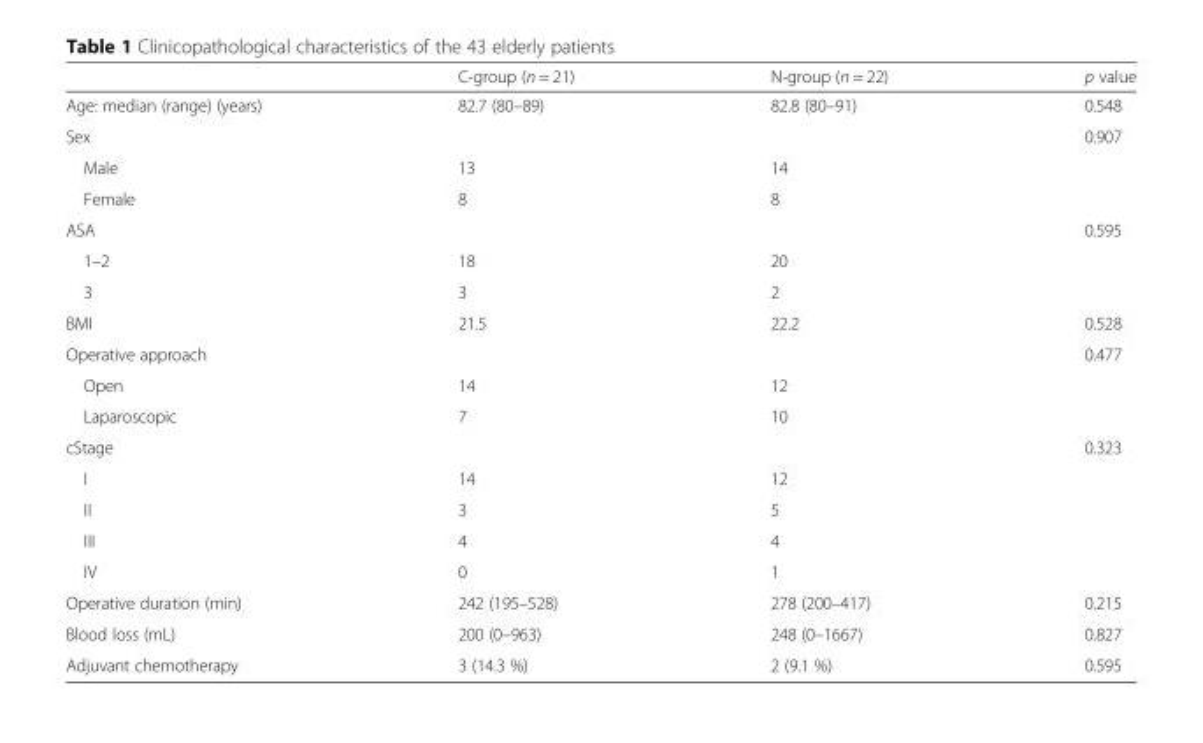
<table><thead><tr><td></td><td>C-group (n = 21)</td><td>N-group (n = 22)</td><td>p value</td></tr></thead><tbody><tr><td>Age: median (range) (years)</td><td>82.7 (80–89)</td><td>82.8 (80–91)</td><td>0.548</td></tr><tr><td colspan="3">Sex</td><td rowspan="3">0.907</td></tr><tr><td>Male</td><td>13</td><td>14</td></tr><tr><td>Female</td><td>8</td><td>8</td></tr><tr><td colspan="3">ASA</td><td rowspan="3">0.595</td></tr><tr><td>1–2</td><td>18</td><td>20</td></tr><tr><td>3</td><td>3</td><td>2</td></tr><tr><td>BMI</td><td>21.5</td><td>22.2</td><td>0.528</td></tr><tr><td colspan="3">Operative approach</td><td rowspan="3">0.477</td></tr><tr><td>Open</td><td>14</td><td>12</td></tr><tr><td>Laparoscopic</td><td>7</td><td>10</td></tr><tr><td colspan="3">cStage</td><td rowspan="5">0.323</td></tr><tr><td>I</td><td>14</td><td>12</td></tr><tr><td>II</td><td>3</td><td>5</td></tr><tr><td>III</td><td>4</td><td>4</td></tr><tr><td>IV</td><td>0</td><td>1</td></tr><tr><td>Operative duration (min)</td><td>242 (195–528)</td><td>278 (200–417)</td><td>0.215</td></tr><tr><td>Blood loss (mL)</td><td>200 (0–963)</td><td>248 (0–1667)</td><td>0.827</td></tr><tr><td>Adjuvant chemotherapy</td><td>3 (14.3 %)</td><td>2 (9.1 %)</td><td>0.595</td></tr></tbody></table>